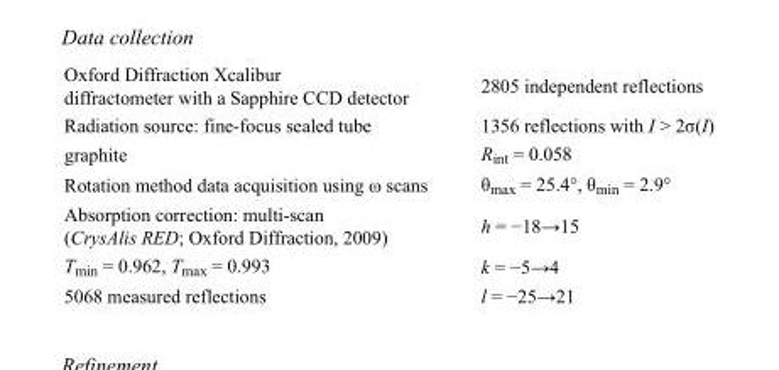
<table><tbody><tr><td>Oxford Diffraction Xcalibur diffractometer with a Sapphire CCD detector</td><td>2805 independent reflections</td></tr><tr><td>Radiation source: fine-focus sealed tube</td><td>1356 reflections with I &gt; 2σ(I)</td></tr><tr><td>graphite</td><td>R<sub>int</sub> = 0.058</td></tr><tr><td>Rotation method data acquisition using ω scans</td><td>θ<sub>max</sub> = 25.4°, θ<sub>min</sub> = 2.9°</td></tr><tr><td>Absorption correction: multi-scan (CrysAlis RED; Oxford Diffraction, 2009)</td><td>h = −18→15</td></tr><tr><td>T<sub>min</sub> = 0.962, T<sub>max</sub> = 0.993</td><td>k = −5→4</td></tr><tr><td>5068 measured reflections</td><td>l = −25→21</td></tr></tbody></table>